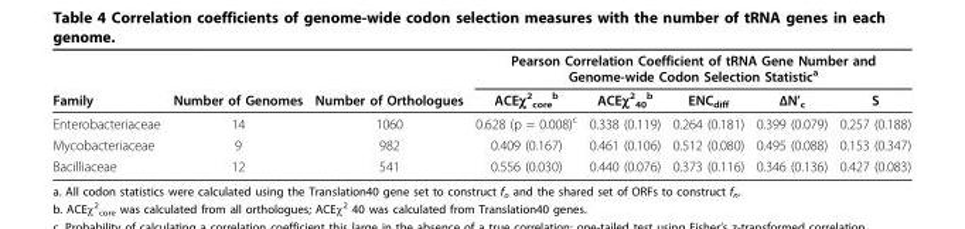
<table><thead><tr><td rowspan="2">Family</td><td rowspan="2">Number of Genomes</td><td rowspan="2">Number of Orthologues</td><td colspan="5">Pearson Correlation Coefficient of tRNA Gene Number and Genome-wide Codon Selection Statistic<sup>a</sup></td></tr><tr><td>ACEχ<sup>2</sup> <sub>core</sub> <sup>b</sup></td><td>ACEχ<sup>2</sup> <sub>40</sub> <sup>b</sup></td><td>ENC<sub>diff</sub></td><td>ΔN’<sub>c</sub></td><td>S</td></tr></thead><tbody><tr><td>Enterobacteriaceae</td><td>14</td><td>1060</td><td>0.628 (p = 0.008)<sup>c</sup></td><td>0.338 (0.119)</td><td>0.264 (0.181)</td><td>0.399 (0.079)</td><td>0.257 (0.188)</td></tr><tr><td>Mycobacteriaceae</td><td>9</td><td>982</td><td>0.409 (0.167)</td><td>0.461 (0.106)</td><td>0.512 (0.080)</td><td>0.495 (0.088)</td><td>0.153 (0.347)</td></tr><tr><td>Bacilliaceae</td><td>12</td><td>541</td><td>0.556 (0.030)</td><td>0.440 (0.076)</td><td>0.373 (0.116)</td><td>0.346 (0.136)</td><td>0.427 (0.083)</td></tr></tbody></table>